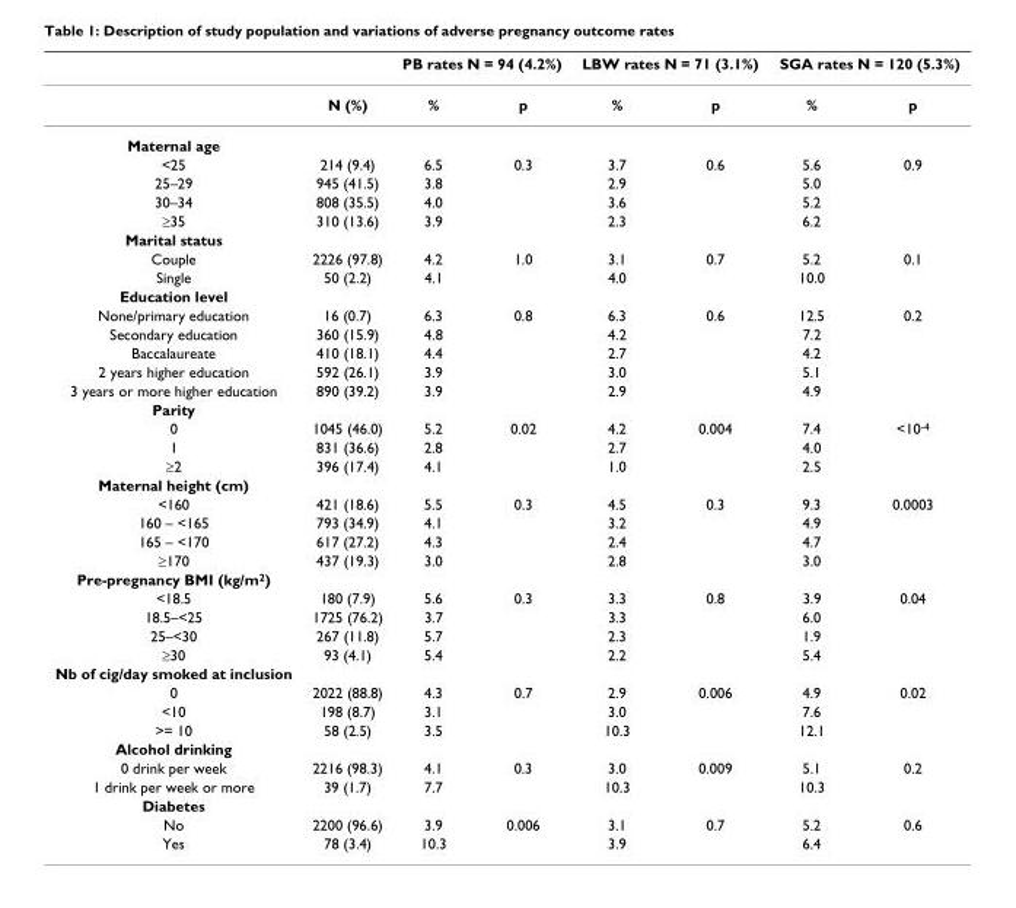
<table><thead><tr><td rowspan="2"></td><td rowspan="2">N (%)</td><td colspan="2">PB rates N = 94 (4.2%)</td><td colspan="2">LBW rates N = 71 (3.1%)</td><td colspan="2">SGA rates N = 120 (5.3%)</td></tr><tr><td>%</td><td>p</td><td>%</td><td>p</td><td>%</td><td>p</td></tr></thead><tbody><tr><td colspan="8">Maternal age</td></tr><tr><td>&lt;25</td><td>214 (9.4)</td><td>6.5</td><td>0.3</td><td>3.7</td><td>0.6</td><td>5.6</td><td>0.9</td></tr><tr><td>25–29</td><td>945 (41.5)</td><td>3.8</td><td></td><td>2.9</td><td></td><td>5.0</td><td></td></tr><tr><td>30–34</td><td>808 (35.5)</td><td>4.0</td><td></td><td>3.6</td><td></td><td>5.2</td><td></td></tr><tr><td>≥35</td><td>310 (13.6)</td><td>3.9</td><td></td><td>2.3</td><td></td><td>6.2</td><td></td></tr><tr><td colspan="8">Marital status</td></tr><tr><td>Couple</td><td>2226 (97.8)</td><td>4.2</td><td>1.0</td><td>3.1</td><td>0.7</td><td>5.2</td><td>0.1</td></tr><tr><td>Single</td><td>50 (2.2)</td><td>4.1</td><td></td><td>4.0</td><td></td><td>10.0</td><td></td></tr><tr><td colspan="8">Education level</td></tr><tr><td>None/primary education</td><td>16 (0.7)</td><td>6.3</td><td>0.8</td><td>6.3</td><td>0.6</td><td>12.5</td><td>0.2</td></tr><tr><td>Secondary education</td><td>360 (15.9)</td><td>4.8</td><td></td><td>4.2</td><td></td><td>7.2</td><td></td></tr><tr><td>Baccalaureate</td><td>410 (18.1)</td><td>4.4</td><td></td><td>2.7</td><td></td><td>4.2</td><td></td></tr><tr><td>2 years higher education</td><td>592 (26.1)</td><td>3.9</td><td></td><td>3.0</td><td></td><td>5.1</td><td></td></tr><tr><td>3 years or more higher education</td><td>890 (39.2)</td><td>3.9</td><td></td><td>2.9</td><td></td><td>4.9</td><td></td></tr><tr><td colspan="8">Parity</td></tr><tr><td>0</td><td>1045 (46.0)</td><td>5.2</td><td>0.02</td><td>4.2</td><td>0.004</td><td>7.4</td><td>&lt;10<sup>-4</sup></td></tr><tr><td>1</td><td>831 (36.6)</td><td>2.8</td><td></td><td>2.7</td><td></td><td>4.0</td><td></td></tr><tr><td>≥2</td><td>396 (17.4)</td><td>4.1</td><td></td><td>1.0</td><td></td><td>2.5</td><td></td></tr><tr><td colspan="8">Maternal height (cm)</td></tr><tr><td>&lt;160</td><td>421 (18.6)</td><td>5.5</td><td>0.3</td><td>4.5</td><td>0.3</td><td>9.3</td><td>0.0003</td></tr><tr><td>160 – &lt;165</td><td>793 (34.9)</td><td>4.1</td><td></td><td>3.2</td><td></td><td>4.9</td><td></td></tr><tr><td>165 – &lt;170</td><td>617 (27.2)</td><td>4.3</td><td></td><td>2.4</td><td></td><td>4.7</td><td></td></tr><tr><td>≥170</td><td>437 (19.3)</td><td>3.0</td><td></td><td>2.8</td><td></td><td>3.0</td><td></td></tr><tr><td colspan="8">Pre-pregnancy BMI (kg/m<sup>2</sup>)</td></tr><tr><td>&lt;18.5</td><td>180 (7.9)</td><td>5.6</td><td>0.3</td><td>3.3</td><td>0.8</td><td>3.9</td><td>0.04</td></tr><tr><td>18.5–&lt;25</td><td>1725 (76.2)</td><td>3.7</td><td></td><td>3.3</td><td></td><td>6.0</td><td></td></tr><tr><td>25–&lt;30</td><td>267 (11.8)</td><td>5.7</td><td></td><td>2.3</td><td></td><td>1.9</td><td></td></tr><tr><td>≥30</td><td>93 (4.1)</td><td>5.4</td><td></td><td>2.2</td><td></td><td>5.4</td><td></td></tr><tr><td colspan="8">Nb of cig/day smoked at inclusion</td></tr><tr><td>0</td><td>2022 (88.8)</td><td>4.3</td><td>0.7</td><td>2.9</td><td>0.006</td><td>4.9</td><td>0.02</td></tr><tr><td>&lt;10</td><td>198 (8.7)</td><td>3.1</td><td></td><td>3.0</td><td></td><td>7.6</td><td></td></tr><tr><td>&gt;= 10</td><td>58 (2.5)</td><td>3.5</td><td></td><td>10.3</td><td></td><td>12.1</td><td></td></tr><tr><td colspan="8">Alcohol drinking</td></tr><tr><td>0 drink per week</td><td>2216 (98.3)</td><td>4.1</td><td>0.3</td><td>3.0</td><td>0.009</td><td>5.1</td><td>0.2</td></tr><tr><td>1 drink per week or more</td><td>39 (1.7)</td><td>7.7</td><td></td><td>10.3</td><td></td><td>10.3</td><td></td></tr><tr><td colspan="8">Diabetes</td></tr><tr><td>No</td><td>2200 (96.6)</td><td>3.9</td><td>0.006</td><td>3.1</td><td>0.7</td><td>5.2</td><td>0.6</td></tr><tr><td>Yes</td><td>78 (3.4)</td><td>10.3</td><td></td><td>3.9</td><td></td><td>6.4</td><td></td></tr></tbody></table>